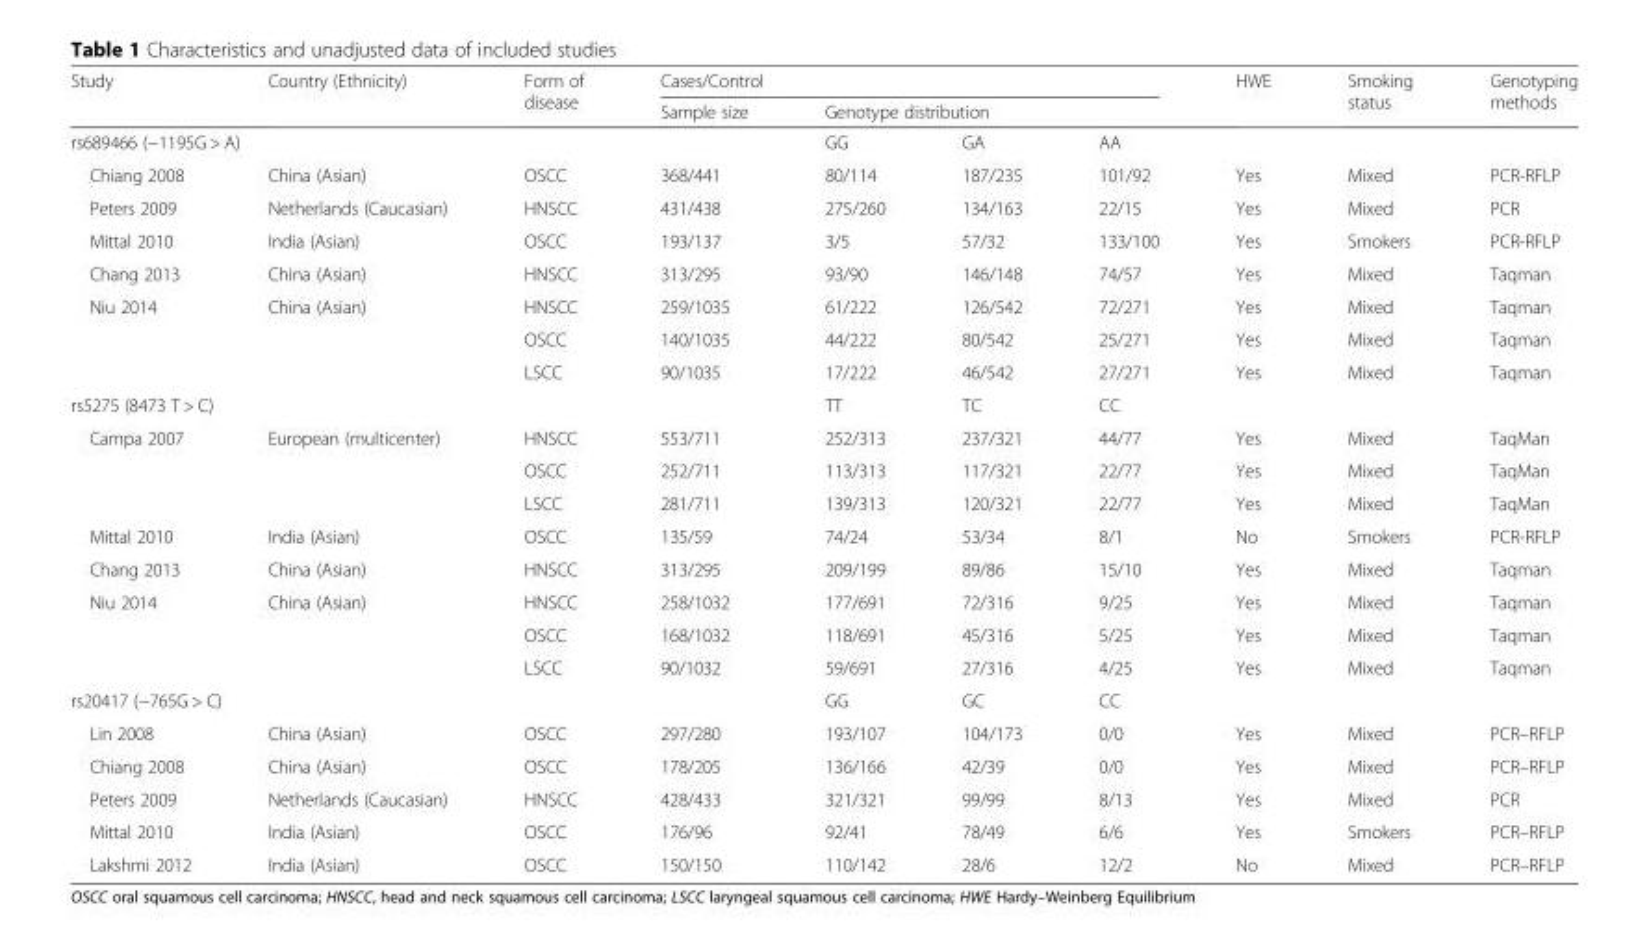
<table><thead><tr><td rowspan="2">Study</td><td rowspan="2">Country (Ethnicity)</td><td rowspan="2">Form of disease</td><td colspan="4">Cases/Control</td><td rowspan="3">HWE</td><td rowspan="3">Smoking status</td><td rowspan="3">Genotyping methods</td></tr><tr><td rowspan="2">Sample size</td><td colspan="3">Genotype distribution</td></tr><tr><td colspan="3">rs689466 (−1195G &gt; A)</td><td>GG</td><td>GA</td><td>AA</td></tr></thead><tbody><tr><td>Chiang 2008</td><td>China (Asian)</td><td>OSCC</td><td>368/441</td><td>80/114</td><td>187/235</td><td>101/92</td><td>Yes</td><td>Mixed</td><td>PCR-RFLP</td></tr><tr><td>Peters 2009</td><td>Netherlands (Caucasian)</td><td>HNSCC</td><td>431/438</td><td>275/260</td><td>134/163</td><td>22/15</td><td>Yes</td><td>Mixed</td><td>PCR</td></tr><tr><td>Mittal 2010</td><td>India (Asian)</td><td>OSCC</td><td>193/137</td><td>3/5</td><td>57/32</td><td>133/100</td><td>Yes</td><td>Smokers</td><td>PCR-RFLP</td></tr><tr><td>Chang 2013</td><td>China (Asian)</td><td>HNSCC</td><td>313/295</td><td>93/90</td><td>146/148</td><td>74/57</td><td>Yes</td><td>Mixed</td><td>Taqman</td></tr><tr><td rowspan="3">Niu 2014</td><td rowspan="3">China (Asian)</td><td>HNSCC</td><td>259/1035</td><td>61/222</td><td>126/542</td><td>72/271</td><td>Yes</td><td>Mixed</td><td>Taqman</td></tr><tr><td>OSCC</td><td>140/1035</td><td>44/222</td><td>80/542</td><td>25/271</td><td>Yes</td><td>Mixed</td><td>Taqman</td></tr><tr><td>LSCC</td><td>90/1035</td><td>17/222</td><td>46/542</td><td>27/271</td><td>Yes</td><td>Mixed</td><td>Taqman</td></tr><tr><td colspan="3">rs5275 (8473 T &gt; C)</td><td></td><td>TT</td><td>TC</td><td>CC</td><td></td><td></td><td></td></tr><tr><td rowspan="3">Campa 2007</td><td rowspan="3">European (multicenter)</td><td>HNSCC</td><td>553/711</td><td>252/313</td><td>237/321</td><td>44/77</td><td>Yes</td><td>Mixed</td><td>TaqMan</td></tr><tr><td>OSCC</td><td>252/711</td><td>113/313</td><td>117/321</td><td>22/77</td><td>Yes</td><td>Mixed</td><td>TaqMan</td></tr><tr><td>LSCC</td><td>281/711</td><td>139/313</td><td>120/321</td><td>22/77</td><td>Yes</td><td>Mixed</td><td>TaqMan</td></tr><tr><td>Mittal 2010</td><td>India (Asian)</td><td>OSCC</td><td>135/59</td><td>74/24</td><td>53/34</td><td>8/1</td><td>No</td><td>Smokers</td><td>PCR-RFLP</td></tr><tr><td>Chang 2013</td><td>China (Asian)</td><td>HNSCC</td><td>313/295</td><td>209/199</td><td>89/86</td><td>15/10</td><td>Yes</td><td>Mixed</td><td>Taqman</td></tr><tr><td rowspan="3">Niu 2014</td><td rowspan="3">China (Asian)</td><td>HNSCC</td><td>258/1032</td><td>177/691</td><td>72/316</td><td>9/25</td><td>Yes</td><td>Mixed</td><td>Taqman</td></tr><tr><td>OSCC</td><td>168/1032</td><td>118/691</td><td>45/316</td><td>5/25</td><td>Yes</td><td>Mixed</td><td>Taqman</td></tr><tr><td>LSCC</td><td>90/1032</td><td>59/691</td><td>27/316</td><td>4/25</td><td>Yes</td><td>Mixed</td><td>Taqman</td></tr><tr><td colspan="3">rs20417 (−765G &gt; C)</td><td></td><td>GG</td><td>GC</td><td>CC</td><td></td><td></td><td></td></tr><tr><td>Lin 2008</td><td>China (Asian)</td><td>OSCC</td><td>297/280</td><td>193/107</td><td>104/173</td><td>0/0</td><td>Yes</td><td>Mixed</td><td>PCR–RFLP</td></tr><tr><td>Chiang 2008</td><td>China (Asian)</td><td>OSCC</td><td>178/205</td><td>136/166</td><td>42/39</td><td>0/0</td><td>Yes</td><td>Mixed</td><td>PCR–RFLP</td></tr><tr><td>Peters 2009</td><td>Netherlands (Caucasian)</td><td>HNSCC</td><td>428/433</td><td>321/321</td><td>99/99</td><td>8/13</td><td>Yes</td><td>Mixed</td><td>PCR</td></tr><tr><td>Mittal 2010</td><td>India (Asian)</td><td>OSCC</td><td>176/96</td><td>92/41</td><td>78/49</td><td>6/6</td><td>Yes</td><td>Smokers</td><td>PCR–RFLP</td></tr><tr><td>Lakshmi 2012</td><td>India (Asian)</td><td>OSCC</td><td>150/150</td><td>110/142</td><td>28/6</td><td>12/2</td><td>No</td><td>Mixed</td><td>PCR–RFLP</td></tr></tbody></table>